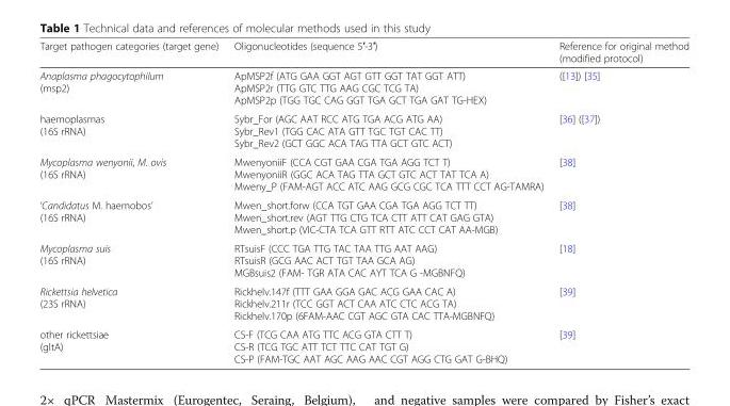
<table><thead><tr><td>Target pathogen categories (target gene)</td><td>Oligonucleotides (sequence 5′-3′)</td><td>Reference for original method (modified protocol)</td></tr></thead><tbody><tr><td>Anaplasma phagocytophilum (msp2)</td><td>ApMSP2f (ATG GAA GGT AGT GTT GGT TAT GGT ATT) ApMSP2r (TTG GTC TTG AAG CGC TCG TA) ApMSP2p (TGG TGC CAG GGT TGA GCT TGA GAT TG-HEX)</td><td>([13]) [35]</td></tr><tr><td>haemoplasmas (16S rRNA)</td><td>Sybr_For (AGC AAT RCC ATG TGA ACG ATG AA) Sybr_Rev1 (TGG CAC ATA GTT TGC TGT CAC TT) Sybr_Rev2 (GCT GGC ACA TAG TTA GCT GTC ACT)</td><td>[36] ([37])</td></tr><tr><td>Mycoplasma wenyonii, M. ovis (16S rRNA)</td><td>MwenyoniiF (CCA CGT GAA CGA TGA AGG TCT T) MwenyoniiR (GGC ACA TAG TTA GCT GTC ACT TAT TCA A) Mweny_P (FAM-AGT ACC ATC AAG GCG CGC TCA TTT CCT AG-TAMRA)</td><td>[38]</td></tr><tr><td>‘Candidatus M. haemobos’ (16S rRNA)</td><td>Mwen_short.forw (CCA TGT GAA CGA TGA AGG TCT TT) Mwen_short.rev (AGT TTG CTG TCA CTT ATT CAT GAG GTA) Mwen_short.p (VIC-CTA TCA GTT RTT ATC CCT CAT AA-MGB)</td><td>[38]</td></tr><tr><td>Mycoplasma suis (16S rRNA)</td><td>RTsuisF (CCC TGA TTG TAC TAA TTG AAT AAG) RTsuisR (GCG AAC ACT TGT TAA GCA AG) MGBsuis2 (FAM- TGR ATA CAC AYT TCA G -MGBNFQ)</td><td>[18]</td></tr><tr><td>Rickettsia helvetica (23S rRNA)</td><td>Rickhelv.147f (TTT GAA GGA GAC ACG GAA CAC A) Rickhelv.211r (TCC GGT ACT CAA ATC CTC ACG TA) Rickhelv.170p (6FAM-AAC CGT AGC GTA CAC TTA-MGBNFQ)</td><td>[39]</td></tr><tr><td>other rickettsiae (gltA)</td><td>CS-F (TCG CAA ATG TTC ACG GTA CTT T) CS-R (TCG TGC ATT TCT TTC CAT TGT G) CS-P (FAM-TGC AAT AGC AAG AAC CGT AGG CTG GAT G-BHQ)</td><td>[39]</td></tr></tbody></table>